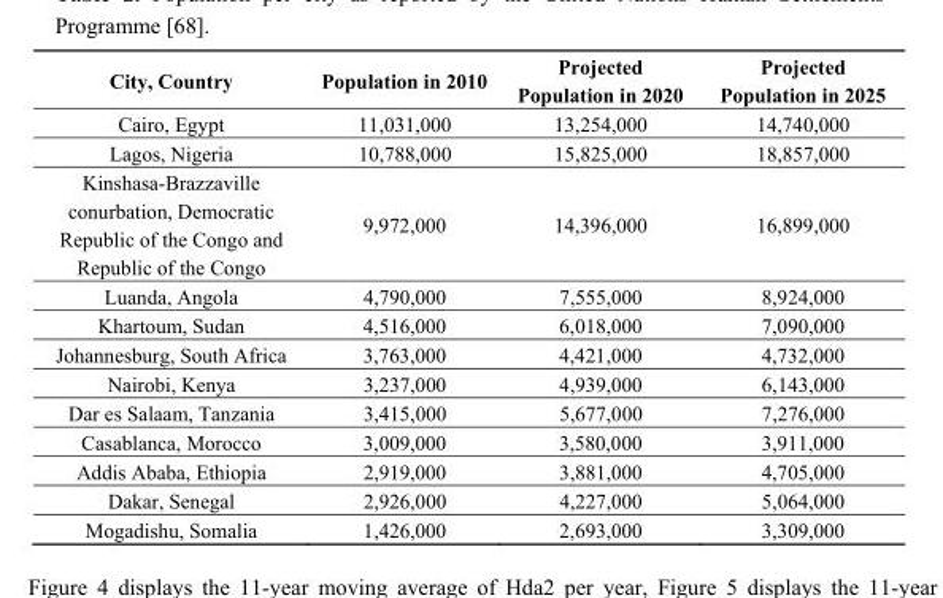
<table><thead><tr><td>City, Country</td><td>Population in 2010</td><td>Projected Population in 2020</td><td>Projected Population in 2025</td></tr></thead><tbody><tr><td>Cairo, Egypt</td><td>11,031,000</td><td>13,254,000</td><td>14,740,000</td></tr><tr><td>Lagos, Nigeria</td><td>10,788,000</td><td>15,825,000</td><td>18,857,000</td></tr><tr><td>Kinshasa-Brazzaville conurbation, Democratic Republic of the Congo and Republic of the Congo</td><td>9,972,000</td><td>14,396,000</td><td>16,899,000</td></tr><tr><td>Luanda, Angola</td><td>4,790,000</td><td>7,555,000</td><td>8,924,000</td></tr><tr><td>Khartoum, Sudan</td><td>4,516,000</td><td>6,018,000</td><td>7,090,000</td></tr><tr><td>Johannesburg, South Africa</td><td>3,763,000</td><td>4,421,000</td><td>4,732,000</td></tr><tr><td>Nairobi, Kenya</td><td>3,237,000</td><td>4,939,000</td><td>6,143,000</td></tr><tr><td>Dar es Salaam, Tanzania</td><td>3,415,000</td><td>5,677,000</td><td>7,276,000</td></tr><tr><td>Casablanca, Morocco</td><td>3,009,000</td><td>3,580,000</td><td>3,911,000</td></tr><tr><td>Addis Ababa, Ethiopia</td><td>2,919,000</td><td>3,881,000</td><td>4,705,000</td></tr><tr><td>Dakar, Senegal</td><td>2,926,000</td><td>4,227,000</td><td>5,064,000</td></tr><tr><td>Mogadishu, Somalia</td><td>1,426,000</td><td>2,693,000</td><td>3,309,000</td></tr></tbody></table>